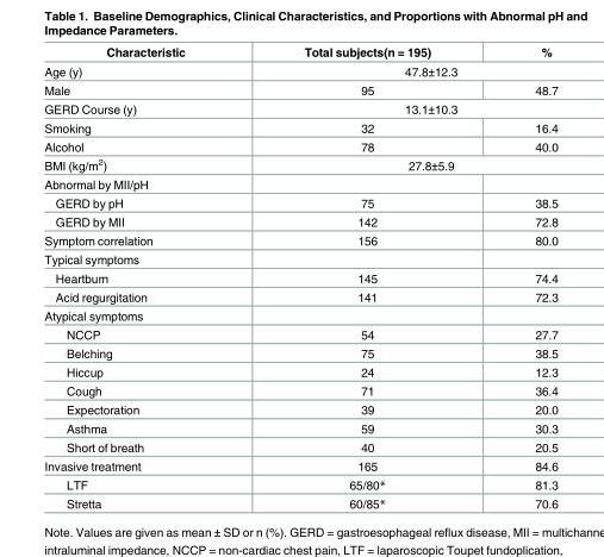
<table><thead><tr><td>Characteristic</td><td>Total subjects(n = 195)</td><td>%</td></tr></thead><tbody><tr><td>Age (y)</td><td colspan="2">47.8±12.3</td></tr><tr><td>Male</td><td>95</td><td>48.7</td></tr><tr><td>GERD Course (y)</td><td colspan="2">13.1±10.3</td></tr><tr><td>Smoking</td><td>32</td><td>16.4</td></tr><tr><td>Alcohol</td><td>78</td><td>40.0</td></tr><tr><td>BMI (kg/m<sup>2</sup>)</td><td colspan="2">27.8±5.9</td></tr><tr><td colspan="3">Abnormal by MII/pH</td></tr><tr><td>GERD by pH</td><td>75</td><td>38.5</td></tr><tr><td>GERD by MII</td><td>142</td><td>72.8</td></tr><tr><td>Symptom correlation</td><td>156</td><td>80.0</td></tr><tr><td colspan="3">Typical symptoms</td></tr><tr><td>Heartburn</td><td>145</td><td>74.4</td></tr><tr><td>Acid regurgitation</td><td>141</td><td>72.3</td></tr><tr><td colspan="3">Atypical symptoms</td></tr><tr><td>NCCP</td><td>54</td><td>27.7</td></tr><tr><td>Belching</td><td>75</td><td>38.5</td></tr><tr><td>Hiccup</td><td>24</td><td>12.3</td></tr><tr><td>Cough</td><td>71</td><td>36.4</td></tr><tr><td>Expectoration</td><td>39</td><td>20.0</td></tr><tr><td>Asthma</td><td>59</td><td>30.3</td></tr><tr><td>Short of breath</td><td>40</td><td>20.5</td></tr><tr><td>Invasive treatment</td><td>165</td><td>84.6</td></tr><tr><td>LTF</td><td>65/80*</td><td>81.3</td></tr><tr><td>Stretta</td><td>60/85*</td><td>70.6</td></tr></tbody></table>